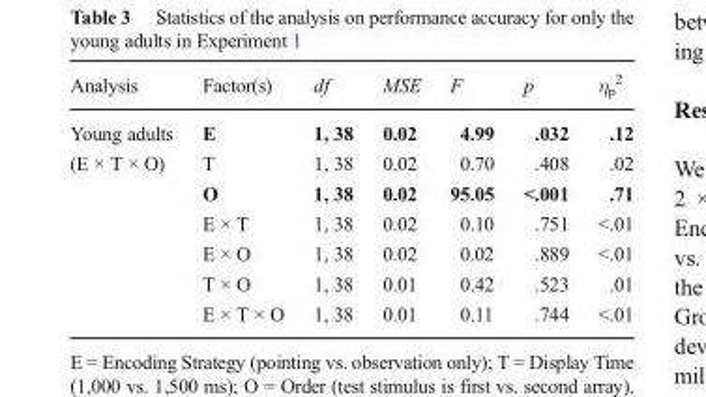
<table><thead><tr><td>Analysis</td><td>Factor(s)</td><td>df</td><td>MSE</td><td>F</td><td>p</td><td>η<sub>p</sub> <sup>2</sup></td></tr></thead><tbody><tr><td>Young adults</td><td>E</td><td>1, 38</td><td>0.02</td><td>4.99</td><td>.032</td><td>.12</td></tr><tr><td rowspan="6">(E × T × O)</td><td>T</td><td>1, 38</td><td>0.02</td><td>0.70</td><td>.408</td><td>.02</td></tr><tr><td>O</td><td>1, 38</td><td>0.02</td><td>95.05</td><td>&lt;.001</td><td>.71</td></tr><tr><td>E × T</td><td>1, 38</td><td>0.02</td><td>0.10</td><td>.751</td><td>&lt;.01</td></tr><tr><td>E × O</td><td>1, 38</td><td>0.02</td><td>0.02</td><td>.889</td><td>&lt;.01</td></tr><tr><td>T × O</td><td>1, 38</td><td>0.01</td><td>0.42</td><td>.523</td><td>.01</td></tr><tr><td>E × T × O</td><td>1, 38</td><td>0.01</td><td>0.11</td><td>.744</td><td>&lt;.01</td></tr></tbody></table>